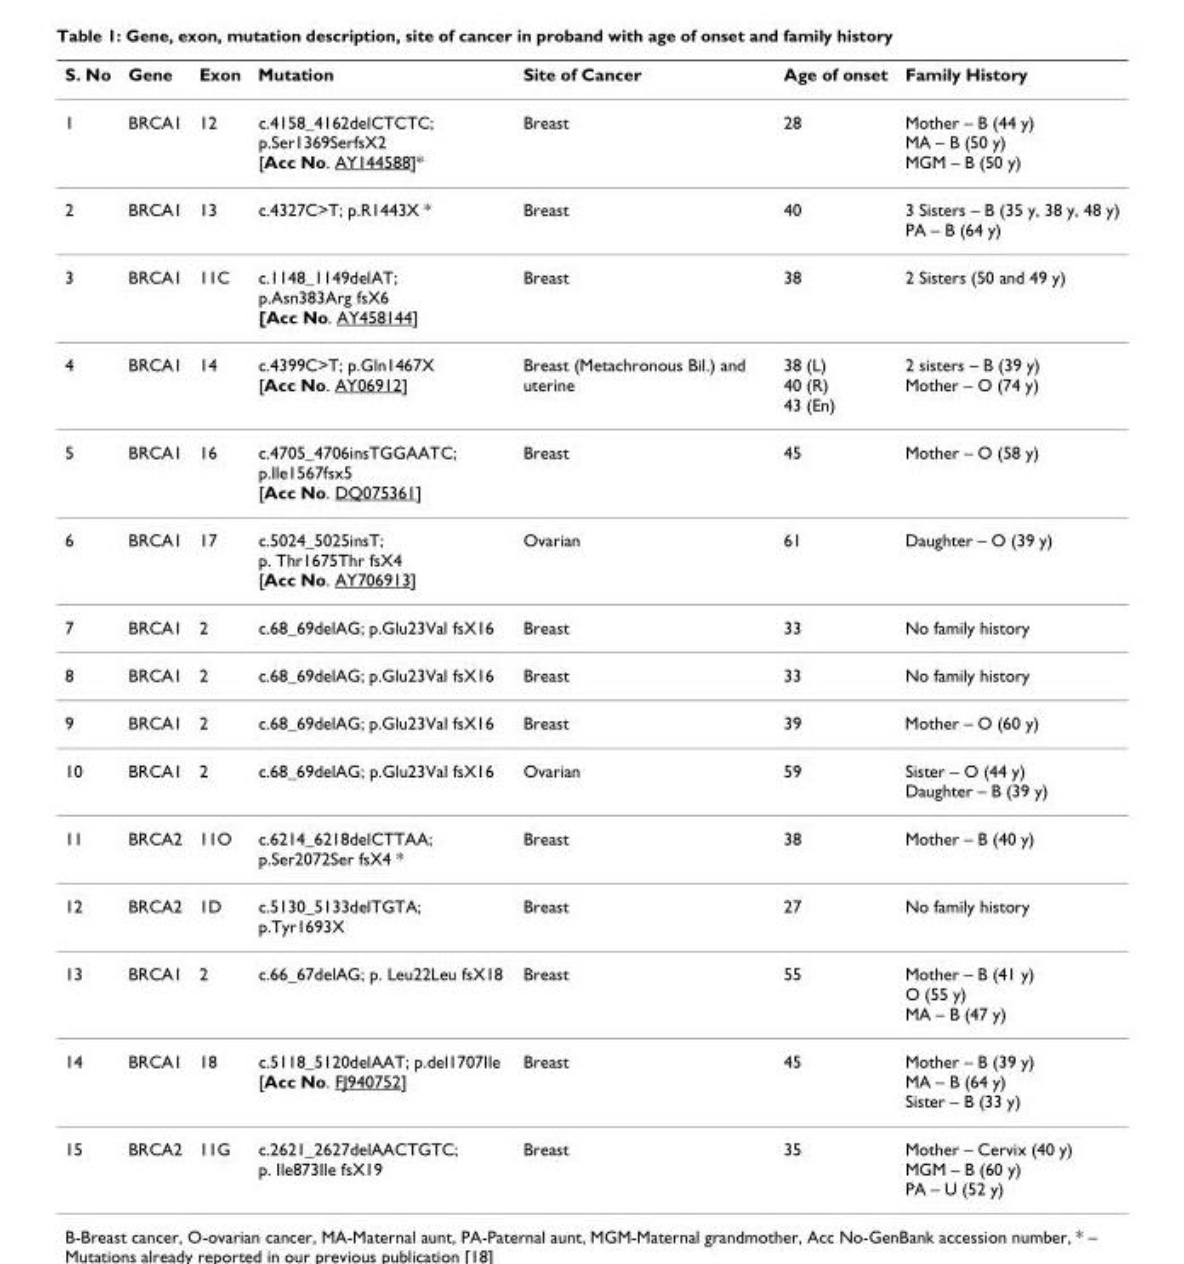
<table><thead><tr><td>S. No</td><td>Gene</td><td>Exon</td><td>Mutation</td><td>Site of Cancer</td><td>Age of onset</td><td>Family History</td></tr></thead><tbody><tr><td>1</td><td>BRCA1</td><td>12</td><td>c.4158_4162delCTCTC; p.Ser1369SerfsX2 [Acc No. AY144588]*</td><td>Breast</td><td>28</td><td>Mother – B (44 y) MA – B (50 y) MGM – B (50 y)</td></tr><tr><td>2</td><td>BRCA1</td><td>13</td><td>c.4327C&gt;T; p.R1443X *</td><td>Breast</td><td>40</td><td>3 Sisters – B (35 y, 38 y, 48 y) PA – B (64 y)</td></tr><tr><td>3</td><td>BRCA1</td><td>11C</td><td>c.1148_1149delAT; p.Asn383Arg fsX6 [Acc No. AY458144]</td><td>Breast</td><td>38</td><td>2 Sisters (50 and 49 y)</td></tr><tr><td>4</td><td>BRCA1</td><td>14</td><td>c.4399C&gt;T; p.Gln1467X [Acc No. AY06912]</td><td>Breast (Metachronous Bil.) and uterine</td><td>38 (L) 40 (R) 43 (En)</td><td>2 sisters – B (39 y) Mother – O (74 y)</td></tr><tr><td>5</td><td>BRCA1</td><td>16</td><td>c.4705_4706insTGGAATC; p.Ile1567fsx5 [Acc No. DQ075361]</td><td>Breast</td><td>45</td><td>Mother – O (58 y)</td></tr><tr><td>6</td><td>BRCA1</td><td>17</td><td>c.5024_5025insT; p. Thr1675Thr fsX4 [Acc No. AY706913]</td><td>Ovarian</td><td>61</td><td>Daughter – O (39 y)</td></tr><tr><td>7</td><td>BRCA1</td><td>2</td><td>c.68_69delAG; p.Glu23Val fsX16</td><td>Breast</td><td>33</td><td>No family history</td></tr><tr><td>8</td><td>BRCA1</td><td>2</td><td>c.68_69delAG; p.Glu23Val fsX16</td><td>Breast</td><td>33</td><td>No family history</td></tr><tr><td>9</td><td>BRCA1</td><td>2</td><td>c.68_69delAG; p.Glu23Val fsX16</td><td>Breast</td><td>39</td><td>Mother – O (60 y)</td></tr><tr><td>10</td><td>BRCA1</td><td>2</td><td>c.68_69delAG; p.Glu23Val fsX16</td><td>Ovarian</td><td>59</td><td>Sister – O (44 y) Daughter – B (39 y)</td></tr><tr><td>11</td><td>BRCA2</td><td>11O</td><td>c.6214_6218delCTTAA; p.Ser2072Ser fsX4 *</td><td>Breast</td><td>38</td><td>Mother – B (40 y)</td></tr><tr><td>12</td><td>BRCA2</td><td>1D</td><td>c.5130_5133delTGTA; p.Tyr1693X</td><td>Breast</td><td>27</td><td>No family history</td></tr><tr><td>13</td><td>BRCA1</td><td>2</td><td>c.66_67delAG; p. Leu22Leu fsX18</td><td>Breast</td><td>55</td><td>Mother – B (41 y) O (55 y) MA – B (47 y)</td></tr><tr><td>14</td><td>BRCA1</td><td>18</td><td>c.5118_5120delAAT; p.del1707Ile [Acc No. FJ940752]</td><td>Breast</td><td>45</td><td>Mother – B (39 y) MA – B (64 y) Sister – B (33 y)</td></tr><tr><td>15</td><td>BRCA2</td><td>11G</td><td>c.2621_2627delAACTGTC; p. Ile873Ile fsX19</td><td>Breast</td><td>35</td><td>Mother – Cervix (40 y) MGM – B (60 y) PA – U (52 y)</td></tr></tbody></table>